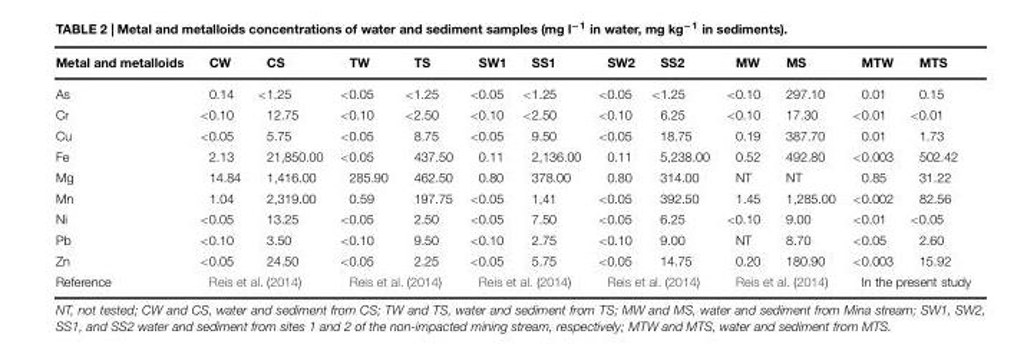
<table><thead><tr><td>Metal and metalloids</td><td>CW</td><td>CS</td><td>TW</td><td>TS</td><td>SW1</td><td>SS1</td><td>SW2</td><td>SS2</td><td>MW</td><td>MS</td><td>MTW</td><td>MTS</td></tr></thead><tbody><tr><td>As</td><td>0.14</td><td>&lt;1.25</td><td>&lt;0.05</td><td>&lt;1.25</td><td>&lt;0.05</td><td>&lt;1.25</td><td>&lt;0.05</td><td>&lt;1.25</td><td>&lt;0.10</td><td>297.10</td><td>0.01</td><td>0.15</td></tr><tr><td>Cr</td><td>&lt;0.10</td><td>12.75</td><td>&lt;0.10</td><td>&lt;2.50</td><td>&lt;0.10</td><td>&lt;2.50</td><td>&lt;0.10</td><td>6.25</td><td>&lt;0.10</td><td>17.30</td><td>&lt;0.01</td><td>&lt;0.01</td></tr><tr><td>Cu</td><td>&lt;0.05</td><td>5.75</td><td>&lt;0.05</td><td>8.75</td><td>&lt;0.05</td><td>9.50</td><td>&lt;0.05</td><td>18.75</td><td>0.19</td><td>387.70</td><td>0.01</td><td>1.73</td></tr><tr><td>Fe</td><td>2.13</td><td>21,850.00</td><td>&lt;0.05</td><td>437.50</td><td>0.11</td><td>2,136.00</td><td>0.11</td><td>5,238.00</td><td>0.52</td><td>492.80</td><td>&lt;0.003</td><td>502.42</td></tr><tr><td>Mg</td><td>14.84</td><td>1,416.00</td><td>285.90</td><td>462.50</td><td>0.80</td><td>378.00</td><td>0.80</td><td>314.00</td><td>NT</td><td>NT</td><td>0.85</td><td>31.22</td></tr><tr><td>Mn</td><td>1.04</td><td>2,319.00</td><td>0.59</td><td>197.75</td><td>&lt;0.05</td><td>1,41</td><td>&lt;0.05</td><td>392.50</td><td>1.45</td><td>1,285.00</td><td>&lt;0.002</td><td>82.56</td></tr><tr><td>Ni</td><td>&lt;0.05</td><td>13.25</td><td>&lt;0.05</td><td>2.50</td><td>&lt;0.05</td><td>7.50</td><td>&lt;0.05</td><td>6.25</td><td>&lt;0.10</td><td>9.00</td><td>&lt;0.01</td><td>&lt;0.05</td></tr><tr><td>Pb</td><td>&lt;0.10</td><td>3.50</td><td>&lt;0.10</td><td>9.50</td><td>&lt;0.10</td><td>2.75</td><td>&lt;0.10</td><td>9.00</td><td>NT</td><td>8.70</td><td>&lt;0.05</td><td>2.60</td></tr><tr><td>Zn</td><td>&lt;0.05</td><td>24.50</td><td>&lt;0.05</td><td>2.25</td><td>&lt;0.05</td><td>5.75</td><td>&lt;0.05</td><td>14.75</td><td>0.20</td><td>180.90</td><td>&lt;0.003</td><td>15.92</td></tr><tr><td>Reference</td><td colspan="2">Reis et al. (2014)</td><td colspan="2">Reis et al. (2014)</td><td colspan="2">Reis et al. (2014)</td><td colspan="2">Reis et al. (2014)</td><td colspan="2">Reis et al. (2014)</td><td colspan="2">In the present study</td></tr></tbody></table>